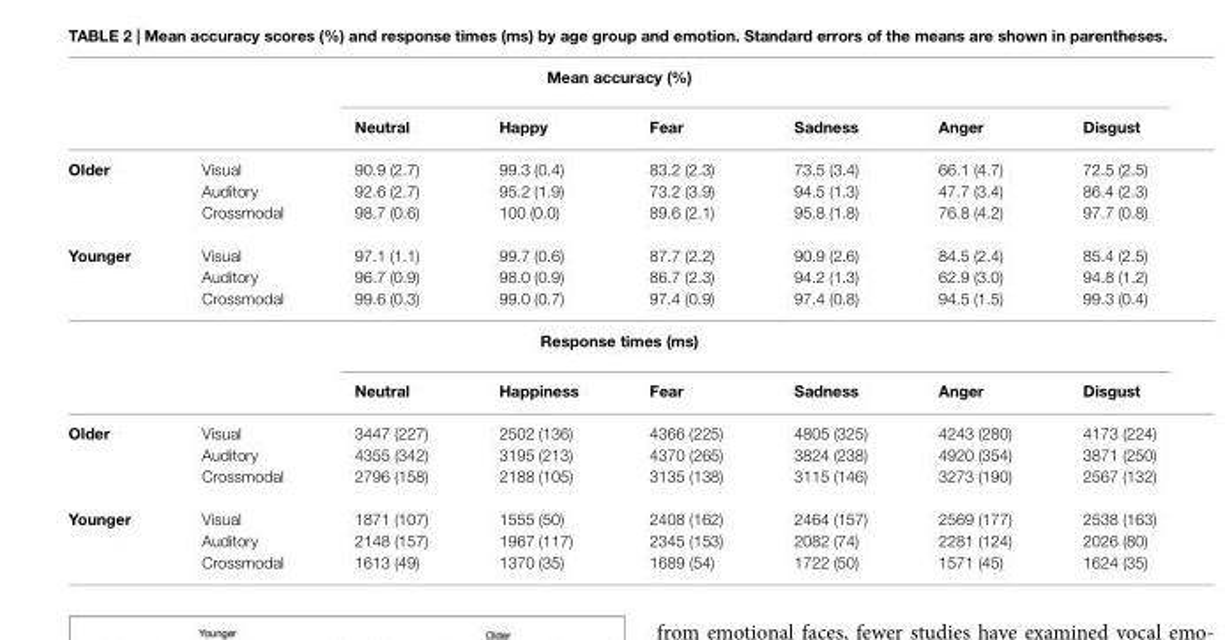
<table><thead><tr><td rowspan="2"></td><td rowspan="2"></td><td colspan="6">Mean accuracy (%)</td></tr><tr><td>Neutral</td><td>Happy</td><td>Fear</td><td>Sadness</td><td>Anger</td><td>Disgust</td></tr></thead><tbody><tr><td rowspan="3">Older</td><td>Visual</td><td>90.9 (2.7)</td><td>99.3 (0.4)</td><td>83.2 (2.3)</td><td>73.5 (3.4)</td><td>66.1 (4.7)</td><td>72.5 (2.5)</td></tr><tr><td>Auditory</td><td>92.6 (2.7)</td><td>95.2 (1.9)</td><td>73.2 (3.9)</td><td>94.5 (1.3)</td><td>47.7 (3.4)</td><td>86.4 (2.3)</td></tr><tr><td>Crossmodal</td><td>98.7 (0.6)</td><td>100 (0.0)</td><td>89.6 (2.1)</td><td>95.8 (1.8)</td><td>76.8 (4.2)</td><td>97.7 (0.8)</td></tr><tr><td rowspan="5">Younger</td><td>Visual</td><td>97.1 (1.1)</td><td>99.7 (0.6)</td><td>87.7 (2.2)</td><td>90.9 (2.6)</td><td>84.5 (2.4)</td><td>85.4 (2.5)</td></tr><tr><td>Auditory</td><td>96.7 (0.9)</td><td>98.0 (0.9)</td><td>86.7 (2.3)</td><td>94.2 (1.3)</td><td>62.9 (3.0)</td><td>94.8 (1.2)</td></tr><tr><td>Crossmodal</td><td>99.6 (0.3)</td><td>99.0 (0.7)</td><td>97.4 (0.9)</td><td>97.4 (0.8)</td><td>94.5 (1.5)</td><td>99.3 (0.4)</td></tr><tr><td></td><td colspan="6">Response times (ms)</td></tr><tr><td></td><td>Neutral</td><td>Happiness</td><td>Fear</td><td>Sadness</td><td>Anger</td><td>Disgust</td></tr><tr><td rowspan="3">Older</td><td>Visual</td><td>3447 (227)</td><td>2502 (136)</td><td>4366 (225)</td><td>4805 (325)</td><td>4243 (280)</td><td>4173 (224)</td></tr><tr><td>Auditory</td><td>4355 (342)</td><td>3195 (213)</td><td>4370 (265)</td><td>3824 (238)</td><td>4920 (354)</td><td>3871 (250)</td></tr><tr><td>Crossmodal</td><td>2796 (158)</td><td>2188 (105)</td><td>3135 (138)</td><td>3115 (146)</td><td>3273 (190)</td><td>2567 (132)</td></tr><tr><td rowspan="3">Younger</td><td>Visual</td><td>1871 (107)</td><td>1555 (50)</td><td>2408 (162)</td><td>2464 (157)</td><td>2569 (177)</td><td>2538 (163)</td></tr><tr><td>Auditory</td><td>2148 (157)</td><td>1967 (117)</td><td>2345 (153)</td><td>2082 (74)</td><td>2281 (124)</td><td>2026 (80)</td></tr><tr><td>Crossmodal</td><td>1613 (49)</td><td>1370 (35)</td><td>1689 (54)</td><td>1722 (50)</td><td>1571 (45)</td><td>1624 (35)</td></tr></tbody></table>